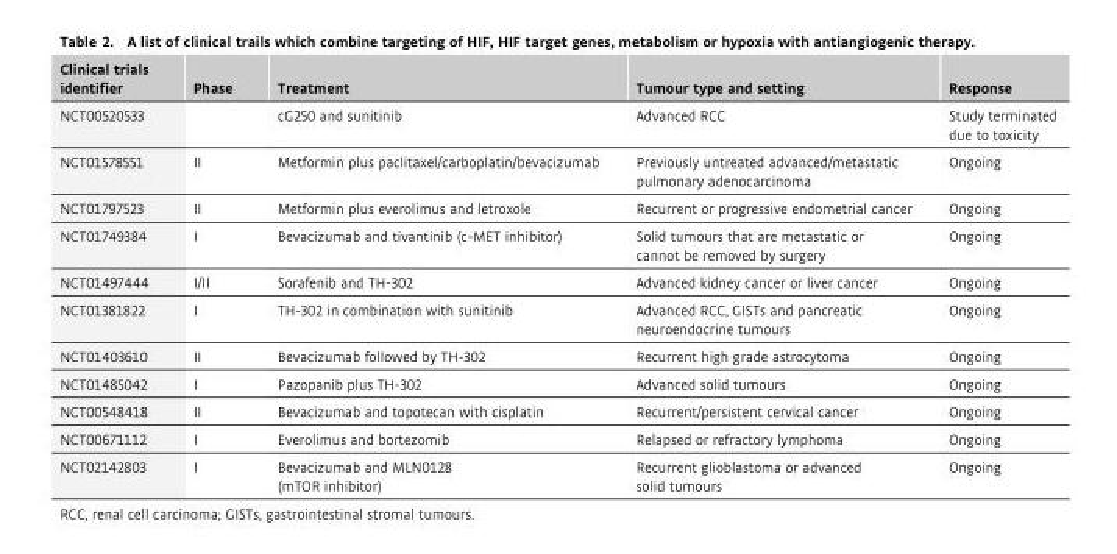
<table><thead><tr><td>Clinical trials identifier</td><td>Phase</td><td>Treatment</td><td>Tumour type and setting</td><td>Response</td></tr></thead><tbody><tr><td>NCT00520533</td><td></td><td>cG250 and sunitinib</td><td>Advanced RCC</td><td>Study terminated due to toxicity</td></tr><tr><td>NCT01578551</td><td>II</td><td>Metformin plus paclitaxel/carboplatin/bevacizumab</td><td>Previously untreated advanced/metastatic pulmonary adenocarcinoma</td><td>Ongoing</td></tr><tr><td>NCT01797523</td><td>II</td><td>Metformin plus everolimus and letroxole</td><td>Recurrent or progressive endometrial cancer</td><td>Ongoing</td></tr><tr><td>NCT01749384</td><td>I</td><td>Bevacizumab and tivantinib (c-MET inhibitor)</td><td>Solid tumours that are metastatic or cannot be removed by surgery</td><td>Ongoing</td></tr><tr><td>NCT01497444</td><td>I/II</td><td>Sorafenib and TH-302</td><td>Advanced kidney cancer or liver cancer</td><td>Ongoing</td></tr><tr><td>NCT01381822</td><td>I</td><td>TH-302 in combination with sunitinib</td><td>Advanced RCC, GISTs and pancreatic neuroendocrine tumours</td><td>Ongoing</td></tr><tr><td>NCT01403610</td><td>II</td><td>Bevacizumab followed by TH-302</td><td>Recurrent high grade astrocytoma</td><td>Ongoing</td></tr><tr><td>NCT01485042</td><td>I</td><td>Pazopanib plus TH-302</td><td>Advanced solid tumours</td><td>Ongoing</td></tr><tr><td>NCT00548418</td><td>II</td><td>Bevacizumab and topotecan with cisplatin</td><td>Recurrent/persistent cervical cancer</td><td>Ongoing</td></tr><tr><td>NCT00671112</td><td>I</td><td>Everolimus and bortezomib</td><td>Relapsed or refractory lymphoma</td><td>Ongoing</td></tr><tr><td>NCT02142803</td><td>I</td><td>Bevacizumab and MLN0128 (mTOR inhibitor)</td><td>Recurrent glioblastoma or advanced solid tumours</td><td>Ongoing</td></tr></tbody></table>